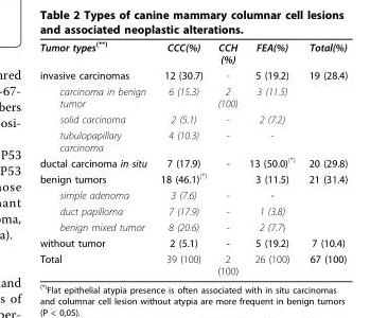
<table><tbody><tr><td>Tumor types<sup>(**)</sup></td><td>CCC(%)</td><td>CCH (%)</td><td>FEA(%)</td><td>Total(%)</td></tr><tr><td>invasive carcinomas</td><td>12 (30.7)</td><td>-</td><td>5 (19.2)</td><td>19 (28.4)</td></tr><tr><td>carcinoma in benign tumor</td><td>6 (15.3)</td><td>2 (100)</td><td>3 (11.5)</td><td></td></tr><tr><td>solid carcinoma</td><td>2 (5.1)</td><td>-</td><td>2 (7.2)</td><td></td></tr><tr><td>tubulopapillary carcinoma</td><td>4 (10.3)</td><td>-</td><td>-</td><td></td></tr><tr><td>ductal carcinoma in situ</td><td>7 (17.9)</td><td>-</td><td>13 (50.0)<sup>(*)</sup></td><td>20 (29.8)</td></tr><tr><td>benign tumors</td><td>18 (46.1)<sup>(*)</sup></td><td></td><td>3 (11.5)</td><td>21 (31.4)</td></tr><tr><td>simple adenoma</td><td>3 (7.6)</td><td>-</td><td>-</td><td></td></tr><tr><td>duct papilloma</td><td>7 (17.9)</td><td>-</td><td>1 (3.8)</td><td></td></tr><tr><td>benign mixed tumor</td><td>8 (20.6)</td><td>-</td><td>2 (7.7)</td><td></td></tr><tr><td>without tumor</td><td>2 (5.1)</td><td>-</td><td>5 (19.2)</td><td>7 (10.4)</td></tr><tr><td>Total</td><td>39 (100)</td><td>2 (100)</td><td>26 (100)</td><td>67 (100)</td></tr></tbody></table>